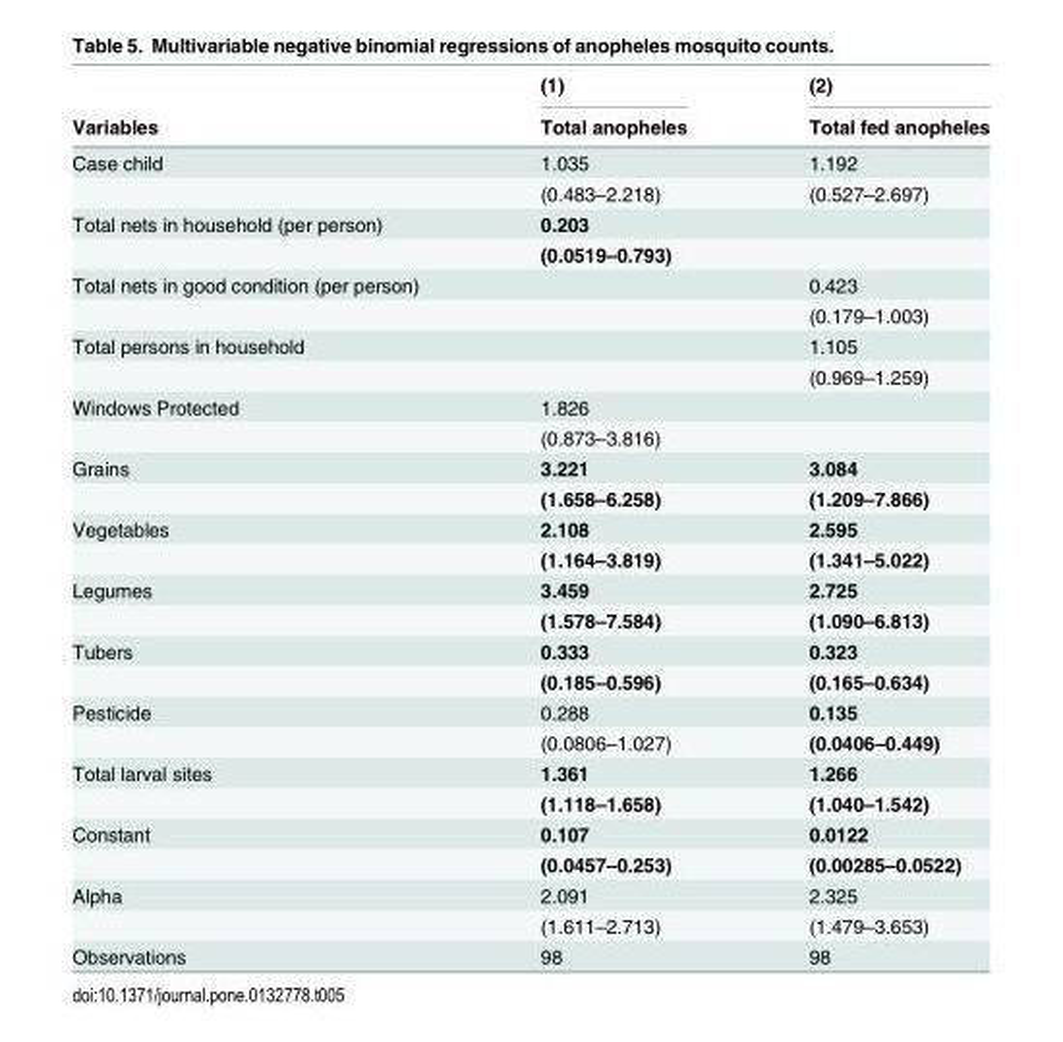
<table><thead><tr><td rowspan="2">Variables</td><td rowspan="2">(1) Total anopheles</td><td rowspan="2">(2) Total fed anopheles</td></tr><tr></tr></thead><tbody><tr><td rowspan="2">Case child</td><td>1.035</td><td>1.192</td></tr><tr><td>(0.483–2.218)</td><td>(0.527–2.697)</td></tr><tr><td rowspan="2">Total nets in household (per person)</td><td>0.203</td><td></td></tr><tr><td>(0.0519–0.793)</td><td></td></tr><tr><td rowspan="2">Total nets in good condition (per person)</td><td></td><td>0.423</td></tr><tr><td></td><td>(0.179–1.003)</td></tr><tr><td rowspan="2">Total persons in household</td><td></td><td>1.105</td></tr><tr><td></td><td>(0.969–1.259)</td></tr><tr><td rowspan="2">Windows Protected</td><td>1.826</td><td></td></tr><tr><td>(0.873–3.816)</td><td></td></tr><tr><td rowspan="2">Grains</td><td>3.221</td><td>3.084</td></tr><tr><td>(1.658–6.258)</td><td>(1.209–7.866)</td></tr><tr><td rowspan="2">Vegetables</td><td>2.108</td><td>2.595</td></tr><tr><td>(1.164–3.819)</td><td>(1.341–5.022)</td></tr><tr><td rowspan="2">Legumes</td><td>3.459</td><td>2.725</td></tr><tr><td>(1.578–7.584)</td><td>(1.090–6.813)</td></tr><tr><td rowspan="2">Tubers</td><td>0.333</td><td>0.323</td></tr><tr><td>(0.185–0.596)</td><td>(0.165–0.634)</td></tr><tr><td rowspan="2">Pesticide</td><td>0.288</td><td>0.135</td></tr><tr><td>(0.0806–1.027)</td><td>(0.0406–0.449)</td></tr><tr><td rowspan="2">Total larval sites</td><td>1.361</td><td>1.266</td></tr><tr><td>(1.118–1.658)</td><td>(1.040–1.542)</td></tr><tr><td rowspan="2">Constant</td><td>0.107</td><td>0.0122</td></tr><tr><td>(0.0457–0.253)</td><td>(0.00285–0.0522)</td></tr><tr><td rowspan="2">Alpha</td><td>2.091</td><td>2.325</td></tr><tr><td>(1.611–2.713)</td><td>(1.479–3.653)</td></tr><tr><td>Observations</td><td>98</td><td>98</td></tr></tbody></table>